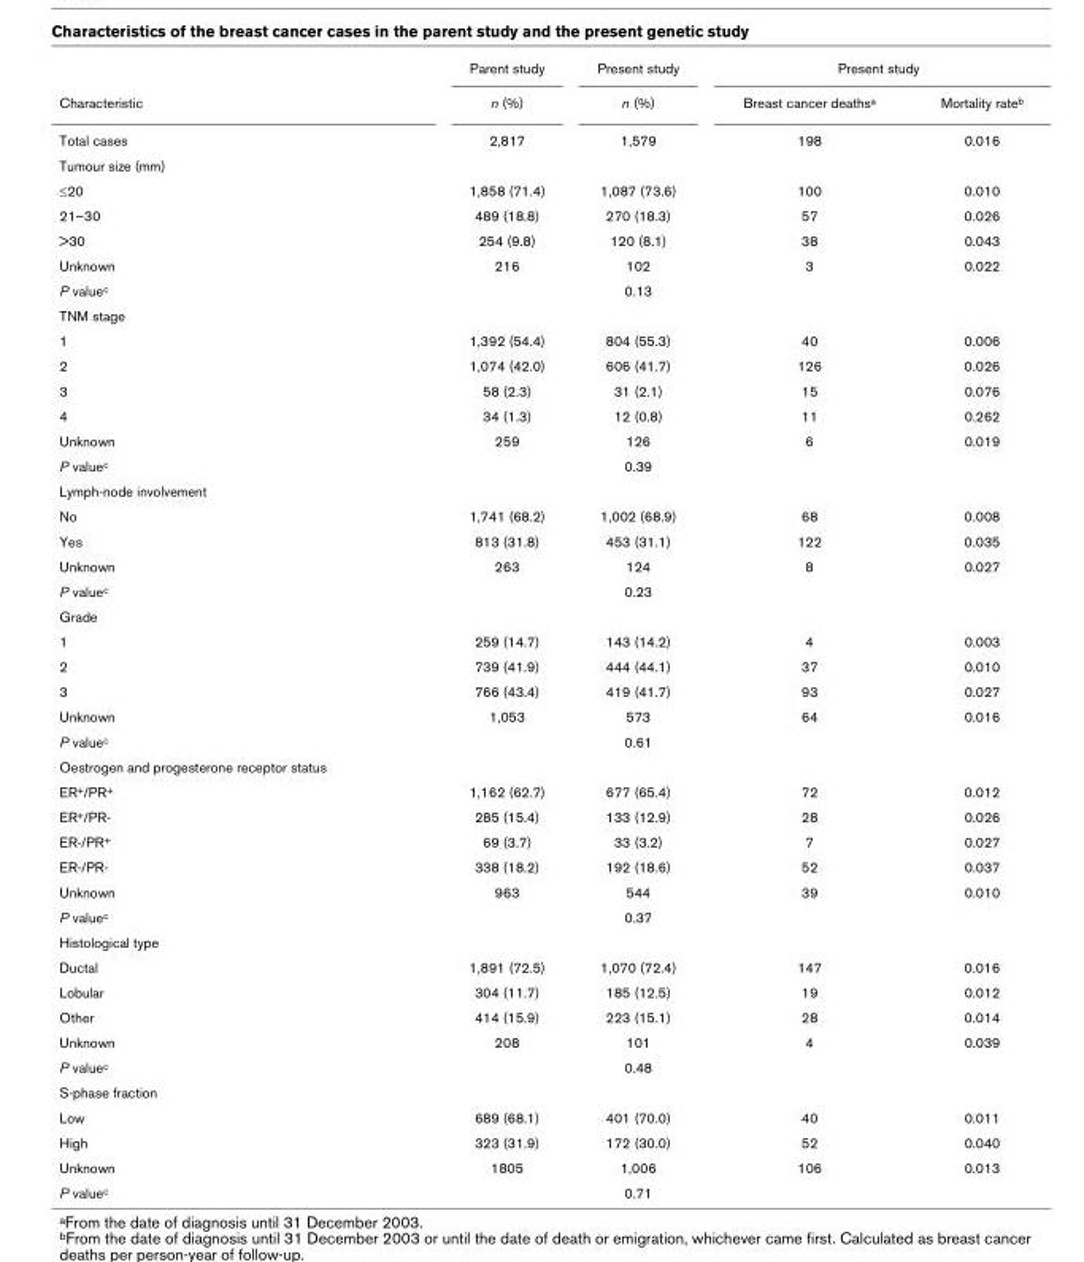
<table><thead><tr><td rowspan="2">Characteristic</td><td rowspan="2">Parent study n (%)</td><td rowspan="2">Present study n (%)</td><td colspan="2">Present study</td></tr><tr><td>Breast cancer deathsa</td><td>Mortality rateb</td></tr></thead><tbody><tr><td>Total cases</td><td>2,817</td><td>1,579</td><td>198</td><td>0.016</td></tr><tr><td colspan="5">Tumour size (mm)</td></tr><tr><td>≤20</td><td>1,858 (71.4)</td><td>1,087 (73.6)</td><td>100</td><td>0.010</td></tr><tr><td>21–30</td><td>489 (18.8)</td><td>270 (18.3)</td><td>57</td><td>0.026</td></tr><tr><td>&gt;30</td><td>254 (9.8)</td><td>120 (8.1)</td><td>38</td><td>0.043</td></tr><tr><td>Unknown</td><td>216</td><td>102</td><td>3</td><td>0.022</td></tr><tr><td>P valuec</td><td></td><td>0.13</td><td></td><td></td></tr><tr><td colspan="5">TNM stage</td></tr><tr><td>1</td><td>1,392 (54.4)</td><td>804 (55.3)</td><td>40</td><td>0.006</td></tr><tr><td>2</td><td>1,074 (42.0)</td><td>606 (41.7)</td><td>126</td><td>0.026</td></tr><tr><td>3</td><td>58 (2.3)</td><td>31 (2.1)</td><td>15</td><td>0.076</td></tr><tr><td>4</td><td>34 (1.3)</td><td>12 (0.8)</td><td>11</td><td>0.262</td></tr><tr><td>Unknown</td><td>259</td><td>126</td><td>6</td><td>0.019</td></tr><tr><td>P valuec</td><td></td><td>0.39</td><td></td><td></td></tr><tr><td colspan="5">Lymph-node involvement</td></tr><tr><td>No</td><td>1,741 (68.2)</td><td>1,002 (68.9)</td><td>68</td><td>0.008</td></tr><tr><td>Yes</td><td>813 (31.8)</td><td>453 (31.1)</td><td>122</td><td>0.035</td></tr><tr><td>Unknown</td><td>263</td><td>124</td><td>8</td><td>0.027</td></tr><tr><td>P valuec</td><td></td><td>0.23</td><td></td><td></td></tr><tr><td colspan="5">Grade</td></tr><tr><td>1</td><td>259 (14.7)</td><td>143 (14.2)</td><td>4</td><td>0.003</td></tr><tr><td>2</td><td>739 (41.9)</td><td>444 (44.1)</td><td>37</td><td>0.010</td></tr><tr><td>3</td><td>766 (43.4)</td><td>419 (41.7)</td><td>93</td><td>0.027</td></tr><tr><td>Unknown</td><td>1,053</td><td>573</td><td>64</td><td>0.016</td></tr><tr><td>P valuec</td><td></td><td>0.61</td><td></td><td></td></tr><tr><td colspan="5">Oestrogen and progesterone receptor status</td></tr><tr><td>ER+/PR+</td><td>1,162 (62.7)</td><td>677 (65.4)</td><td>72</td><td>0.012</td></tr><tr><td>ER+/PR-</td><td>285 (15.4)</td><td>133 (12.9)</td><td>28</td><td>0.026</td></tr><tr><td>ER-/PR+</td><td>69 (3.7)</td><td>33 (3.2)</td><td>7</td><td>0.027</td></tr><tr><td>ER-/PR-</td><td>338 (18.2)</td><td>192 (18.6)</td><td>52</td><td>0.037</td></tr><tr><td>Unknown</td><td>963</td><td>544</td><td>39</td><td>0.010</td></tr><tr><td>P valuec</td><td></td><td>0.37</td><td></td><td></td></tr><tr><td colspan="5">Histological type</td></tr><tr><td>Ductal</td><td>1,891 (72.5)</td><td>1,070 (72.4)</td><td>147</td><td>0.016</td></tr><tr><td>Lobular</td><td>304 (11.7)</td><td>185 (12.5)</td><td>19</td><td>0.012</td></tr><tr><td>Other</td><td>414 (15.9)</td><td>223 (15.1)</td><td>28</td><td>0.014</td></tr><tr><td>Unknown</td><td>208</td><td>101</td><td>4</td><td>0.039</td></tr><tr><td>P valuec</td><td></td><td>0.48</td><td></td><td></td></tr><tr><td colspan="5">S-phase fraction</td></tr><tr><td>Low</td><td>689 (68.1)</td><td>401 (70.0)</td><td>40</td><td>0.011</td></tr><tr><td>High</td><td>323 (31.9)</td><td>172 (30.0)</td><td>52</td><td>0.040</td></tr><tr><td>Unknown</td><td>1805</td><td>1,006</td><td>106</td><td>0.013</td></tr><tr><td>P valuec</td><td></td><td>0.71</td><td></td><td></td></tr></tbody></table>